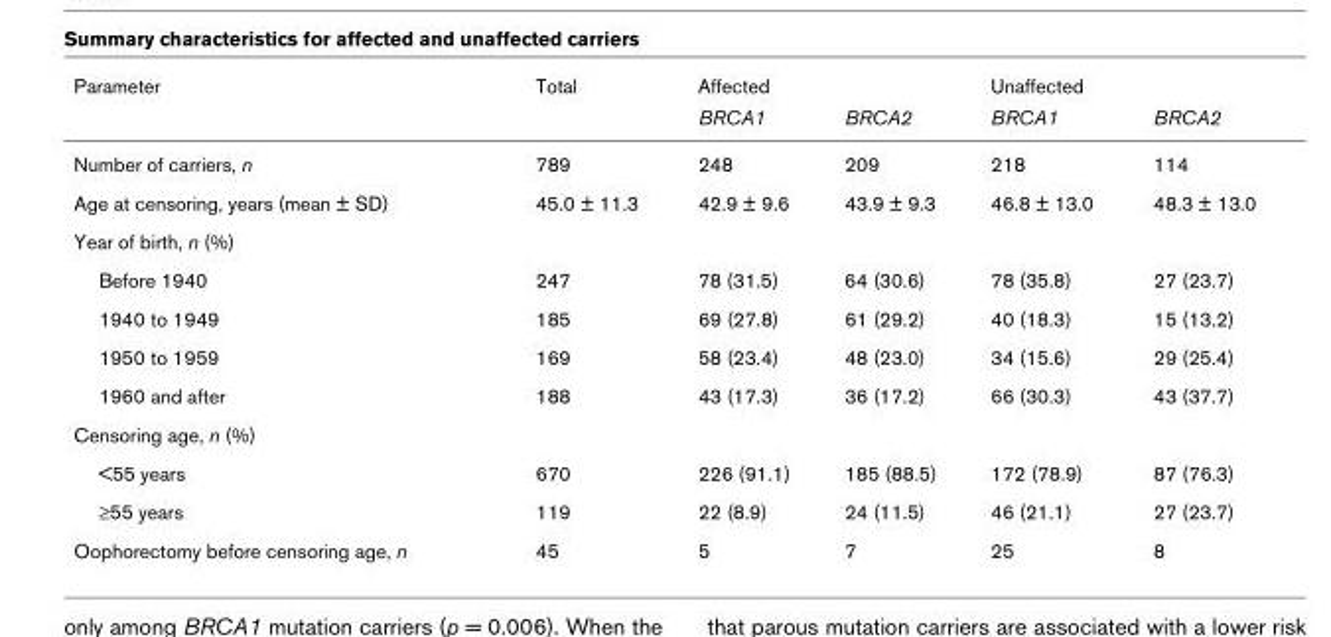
<table><thead><tr><td rowspan="2">Parameter</td><td rowspan="2">Total</td><td colspan="2">Affected</td><td colspan="2">Unaffected</td></tr><tr><td>BRCA1</td><td>BRCA2</td><td>BRCA1</td><td>BRCA2</td></tr></thead><tbody><tr><td>Number of carriers, n</td><td>789</td><td>248</td><td>209</td><td>218</td><td>114</td></tr><tr><td>Age at censoring, years (mean ± SD)</td><td>45.0 ± 11.3</td><td>42.9 ± 9.6</td><td>43.9 ± 9.3</td><td>46.8 ± 13.0</td><td>48.3 ± 13.0</td></tr><tr><td colspan="6">Year of birth, n (%)</td></tr><tr><td>Before 1940</td><td>247</td><td>78 (31.5)</td><td>64 (30.6)</td><td>78 (35.8)</td><td>27 (23.7)</td></tr><tr><td>1940 to 1949</td><td>185</td><td>69 (27.8)</td><td>61 (29.2)</td><td>40 (18.3)</td><td>15 (13.2)</td></tr><tr><td>1950 to 1959</td><td>169</td><td>58 (23.4)</td><td>48 (23.0)</td><td>34 (15.6)</td><td>29 (25.4)</td></tr><tr><td>1960 and after</td><td>188</td><td>43 (17.3)</td><td>36 (17.2)</td><td>66 (30.3)</td><td>43 (37.7)</td></tr><tr><td colspan="6">Censoring age, n (%)</td></tr><tr><td>&lt;55 years</td><td>670</td><td>226 (91.1)</td><td>185 (88.5)</td><td>172 (78.9)</td><td>87 (76.3)</td></tr><tr><td>≥55 years</td><td>119</td><td>22 (8.9)</td><td>24 (11.5)</td><td>46 (21.1)</td><td>27 (23.7)</td></tr><tr><td>Oophorectomy before censoring age, n</td><td>45</td><td>5</td><td>7</td><td>25</td><td>8</td></tr></tbody></table>